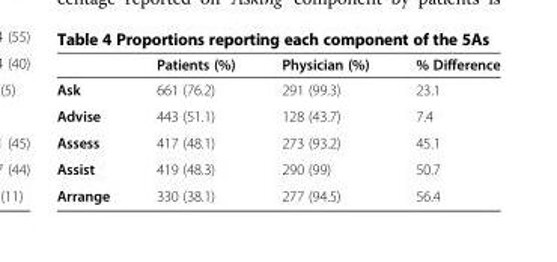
<table><thead><tr><td></td><td>Patients (%)</td><td>Physician (%)</td><td>% Difference</td></tr></thead><tbody><tr><td>Ask</td><td>661 (76.2)</td><td>291 (99.3)</td><td>23.1</td></tr><tr><td>Advise</td><td>443 (51.1)</td><td>128 (43.7)</td><td>7.4</td></tr><tr><td>Assess</td><td>417 (48.1)</td><td>273 (93.2)</td><td>45.1</td></tr><tr><td>Assist</td><td>419 (48.3)</td><td>290 (99)</td><td>50.7</td></tr><tr><td>Arrange</td><td>330 (38.1)</td><td>277 (94.5)</td><td>56.4</td></tr></tbody></table>